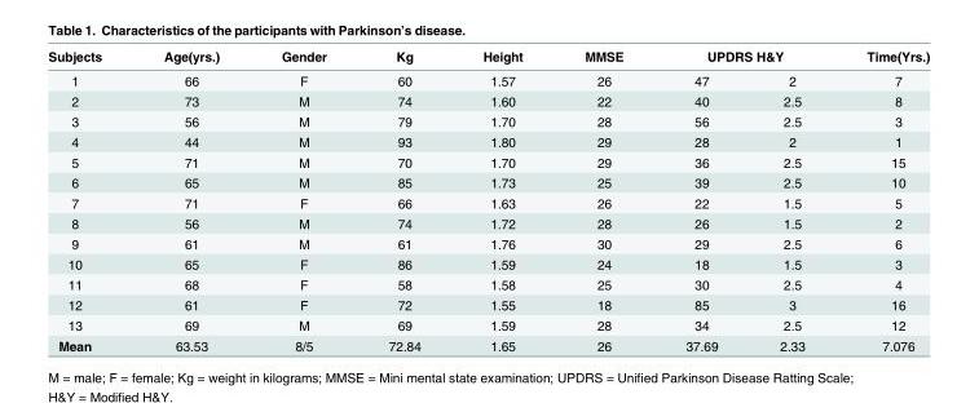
<table><thead><tr><td rowspan="2">Subjects 1</td><td rowspan="2">Age(yrs.) 66</td><td rowspan="2">Gender F</td><td rowspan="2">Kg 60</td><td rowspan="2">Height 1.57</td><td rowspan="2">MMSE 26</td><td colspan="2">UPDRS H&amp;Y</td><td rowspan="2">Time(Yrs.) 7</td></tr><tr><td>47</td><td>2</td></tr></thead><tbody><tr><td>2</td><td>73</td><td>M</td><td>74</td><td>1.60</td><td>22</td><td>40</td><td>2.5</td><td>8</td></tr><tr><td>3</td><td>56</td><td>M</td><td>79</td><td>1.70</td><td>28</td><td>56</td><td>2.5</td><td>3</td></tr><tr><td>4</td><td>44</td><td>M</td><td>93</td><td>1.80</td><td>29</td><td>28</td><td>2</td><td>1</td></tr><tr><td>5</td><td>71</td><td>M</td><td>70</td><td>1.70</td><td>29</td><td>36</td><td>2.5</td><td>15</td></tr><tr><td>6</td><td>65</td><td>M</td><td>85</td><td>1.73</td><td>25</td><td>39</td><td>2.5</td><td>10</td></tr><tr><td>7</td><td>71</td><td>F</td><td>66</td><td>1.63</td><td>26</td><td>22</td><td>1.5</td><td>5</td></tr><tr><td>8</td><td>56</td><td>M</td><td>74</td><td>1.72</td><td>28</td><td>26</td><td>1.5</td><td>2</td></tr><tr><td>9</td><td>61</td><td>M</td><td>61</td><td>1.76</td><td>30</td><td>29</td><td>2.5</td><td>6</td></tr><tr><td>10</td><td>65</td><td>F</td><td>86</td><td>1.59</td><td>24</td><td>18</td><td>1.5</td><td>3</td></tr><tr><td>11</td><td>68</td><td>F</td><td>58</td><td>1.58</td><td>25</td><td>30</td><td>2.5</td><td>4</td></tr><tr><td>12</td><td>61</td><td>F</td><td>72</td><td>1.55</td><td>18</td><td>85</td><td>3</td><td>16</td></tr><tr><td>13</td><td>69</td><td>M</td><td>69</td><td>1.59</td><td>28</td><td>34</td><td>2.5</td><td>12</td></tr><tr><td>Mean</td><td>63.53</td><td>8/5</td><td>72.84</td><td>1.65</td><td>26</td><td>37.69</td><td>2.33</td><td>7.076</td></tr></tbody></table>